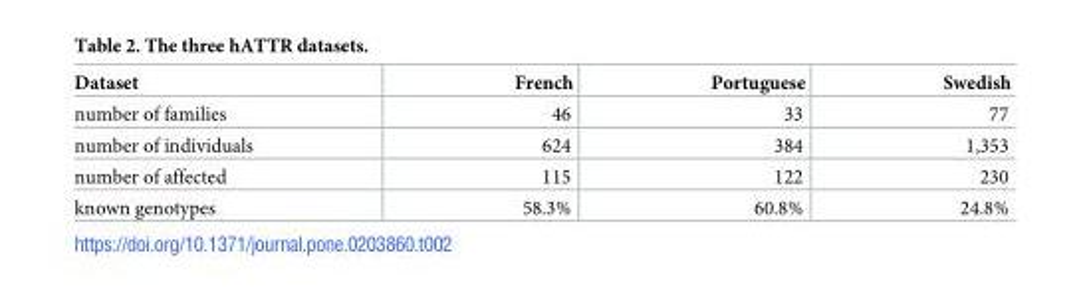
<table><thead><tr><td>Dataset</td><td>French</td><td>Portuguese</td><td>Swedish</td></tr></thead><tbody><tr><td>number of families</td><td>46</td><td>33</td><td>77</td></tr><tr><td>number of individuals</td><td>624</td><td>384</td><td>1,353</td></tr><tr><td>number of affected</td><td>115</td><td>122</td><td>230</td></tr><tr><td>known genotypes</td><td>58.3%</td><td>60.8%</td><td>24.8%</td></tr></tbody></table>